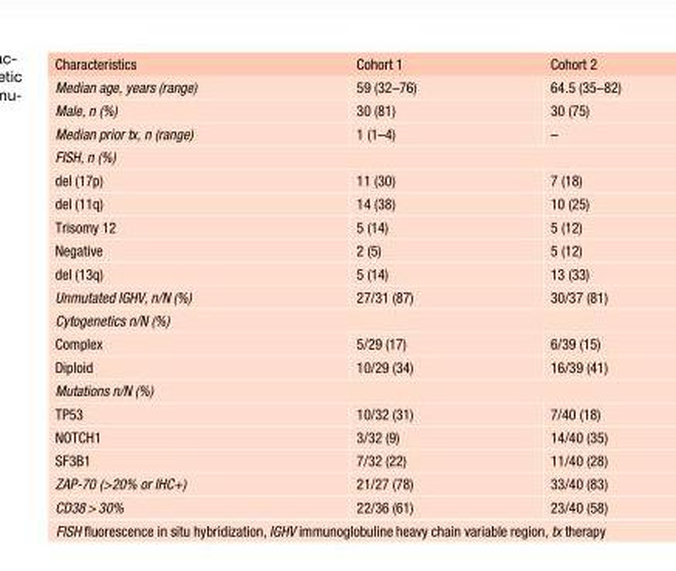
<table><thead><tr><td>Characteristics</td><td>Cohort 1</td><td>Cohort 2</td></tr></thead><tbody><tr><td>Median age, years (range)</td><td>59 (32–76)</td><td>64.5 (35–82)</td></tr><tr><td>Male, n (%)</td><td>30 (81)</td><td>30 (75)</td></tr><tr><td>Median prior tx, n (range)</td><td>1 (1–4)</td><td>–</td></tr><tr><td colspan="3">FISH, n (%)</td></tr><tr><td>del (17p)</td><td>11 (30)</td><td>7 (18)</td></tr><tr><td>del (11q)</td><td>14 (38)</td><td>10 (25)</td></tr><tr><td>Trisomy 12</td><td>5 (14)</td><td>5 (12)</td></tr><tr><td>Negative</td><td>2 (5)</td><td>5 (12)</td></tr><tr><td>del (13q)</td><td>5 (14)</td><td>13 (33)</td></tr><tr><td>Unmutated IGHV, n/N (%)</td><td>27/31 (87)</td><td>30/37 (81)</td></tr><tr><td colspan="3">Cytogenetics n/N (%)</td></tr><tr><td>Complex</td><td>5/29 (17)</td><td>6/39 (15)</td></tr><tr><td>Diploid</td><td>10/29 (34)</td><td>16/39 (41)</td></tr><tr><td colspan="3">Mutations n/N (%)</td></tr><tr><td>TP53</td><td>10/32 (31)</td><td>7/40 (18)</td></tr><tr><td>NOTCH1</td><td>3/32 (9)</td><td>14/40 (35)</td></tr><tr><td>SF3B1</td><td>7/32 (22)</td><td>11/40 (28)</td></tr><tr><td>ZAP-70 (&gt;20% or IHC+)</td><td>21/27 (78)</td><td>33/40 (83)</td></tr><tr><td>CD38&gt; 30%</td><td>22/36 (61)</td><td>23/40 (58)</td></tr></tbody></table>